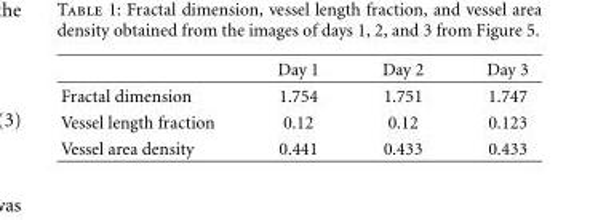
<table><thead><tr><td></td><td>Day 1</td><td>Day 2</td><td>Day 3</td></tr></thead><tbody><tr><td>Fractal dimension</td><td>1.754</td><td>1.751</td><td>1.747</td></tr><tr><td>Vessel length fraction</td><td>0.12</td><td>0.12</td><td>0.123</td></tr><tr><td>Vessel area density</td><td>0.441</td><td>0.433</td><td>0.433</td></tr></tbody></table>